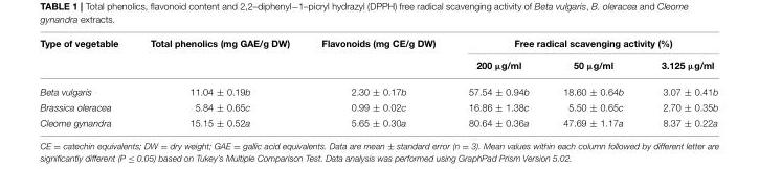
<table><thead><tr><td rowspan="2">Type of vegetable</td><td rowspan="2">Total phenolics (mg GAE/g DW)</td><td rowspan="2">Flavonoids (mg CE/g DW)</td><td colspan="3">Free radical scavenging activity (%)</td></tr><tr><td>200 µg/ml</td><td>50 µg/ml</td><td>3.125 µg/ml</td></tr></thead><tbody><tr><td>Beta vulgaris</td><td>11.04 ± 0.19b</td><td>2.30 ± 0.17b</td><td>57.54 ± 0.94b</td><td>18.60 ± 0.64b</td><td>3.07 ± 0.41b</td></tr><tr><td>Brassica oleracea</td><td>5.84 ± 0.65c</td><td>0.99 ± 0.02c</td><td>16.86 ± 1.38c</td><td>5.50 ± 0.65c</td><td>2.70 ± 0.35b</td></tr><tr><td>Cleome gynandra</td><td>15.15 ± 0.52a</td><td>5.65 ± 0.30a</td><td>80.64 ± 0.36a</td><td>47.69 ± 1.17a</td><td>8.37 ± 0.22a</td></tr></tbody></table>